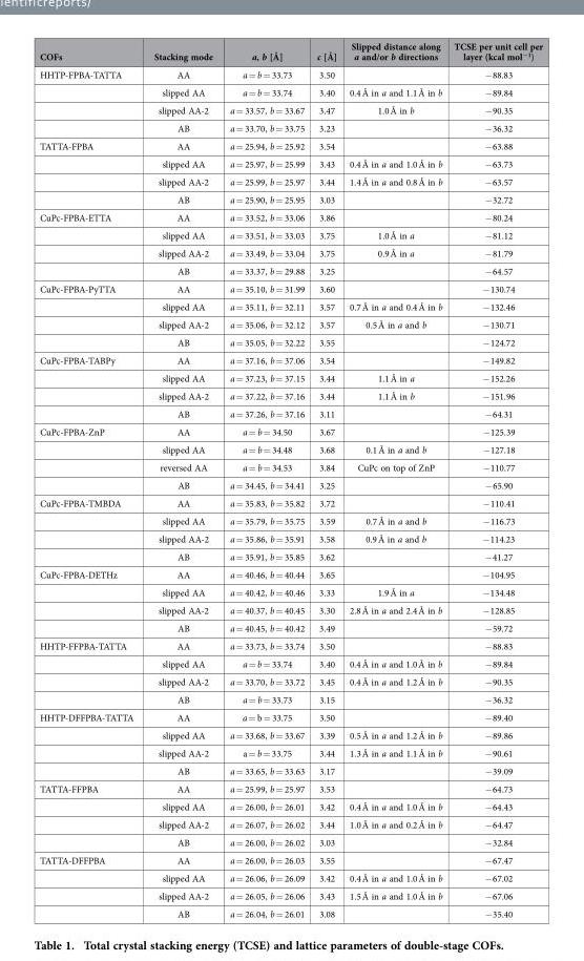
<table><thead><tr><td>COFs</td><td>Stacking mode</td><td>a, b [Å]</td><td>c [Å]</td><td>Slipped distance along a and/or b directions</td><td>TCSE per unit cell per layer (kcal mol<sup>−1</sup>)</td></tr></thead><tbody><tr><td rowspan="4">HHTP-FPBA-TATTA</td><td>AA</td><td>a = b = 33.73</td><td>3.50</td><td></td><td>− 88.83</td></tr><tr><td>slipped AA</td><td>a = b = 33.74</td><td>3.40</td><td>0.4 Å in a and 1.1 Å in b</td><td>− 89.84</td></tr><tr><td>slipped AA-2</td><td>a = 33.57, b = 33.67</td><td>3.47</td><td>1.0 Å in b</td><td>− 90.35</td></tr><tr><td>AB</td><td>a = 33.70, b = 33.75</td><td>3.23</td><td></td><td>− 36.32</td></tr><tr><td rowspan="4">TATTA-FPBA</td><td>AA</td><td>a = 25.94, b = 25.92</td><td>3.54</td><td></td><td>− 63.88</td></tr><tr><td>slipped AA</td><td>a = 25.97, b = 25.99</td><td>3.43</td><td>0.4 Å in a and 1.0 Å in b</td><td>− 63.73</td></tr><tr><td>slipped AA-2</td><td>a = 25.99, b = 25.97</td><td>3.44</td><td>1.4 Å in a and 0.8 Å in b</td><td>− 63.57</td></tr><tr><td>AB</td><td>a = 25.90, b = 25.95</td><td>3.03</td><td></td><td>− 32.72</td></tr><tr><td rowspan="4">CuPc-FPBA-ETTA</td><td>AA</td><td>a = 33.52, b = 33.06</td><td>3.86</td><td></td><td>− 80.24</td></tr><tr><td>slipped AA</td><td>a = 33.51, b = 33.03</td><td>3.75</td><td>1.0 Å in a</td><td>− 81.12</td></tr><tr><td>slipped AA-2</td><td>a = 33.49, b = 33.04</td><td>3.75</td><td>0.9 Å in a</td><td>− 81.79</td></tr><tr><td>AB</td><td>a = 33.37, b = 29.88</td><td>3.25</td><td></td><td>− 64.57</td></tr><tr><td rowspan="4">CuPc-FPBA-PyTTA</td><td>AA</td><td>a = 35.10, b = 31.99</td><td>3.60</td><td></td><td>− 130.74</td></tr><tr><td>slipped AA</td><td>a = 35.11, b = 32.11</td><td>3.57</td><td>0.7 Å in a and 0.4 Å in b</td><td>− 132.46</td></tr><tr><td>slipped AA-2</td><td>a = 35.06, b = 32.12</td><td>3.57</td><td>0.5 Å in a and b</td><td>− 130.71</td></tr><tr><td>AB</td><td>a = 35.05, b = 32.22</td><td>3.55</td><td></td><td>− 124.72</td></tr><tr><td rowspan="4">CuPc-FPBA-TABPy</td><td>AA</td><td>a = 37.16, b = 37.06</td><td>3.54</td><td></td><td>− 149.82</td></tr><tr><td>slipped AA</td><td>a = 37.23, b = 37.15</td><td>3.44</td><td>1.1 Å in a</td><td>− 152.26</td></tr><tr><td>slipped AA-2</td><td>a = 37.22, b = 37.16</td><td>3.44</td><td>1.1 Å in b</td><td>− 151.96</td></tr><tr><td>AB</td><td>a = 37.26, b = 37.16</td><td>3.11</td><td></td><td>− 64.31</td></tr><tr><td rowspan="4">CuPc-FPBA-ZnP</td><td>AA</td><td>a = b = 34.50</td><td>3.67</td><td></td><td>− 125.39</td></tr><tr><td>slipped AA</td><td>a = b = 34.48</td><td>3.68</td><td>0.1 Å in a and b</td><td>− 127.18</td></tr><tr><td>reversed AA</td><td>a = b = 34.53</td><td>3.84</td><td>CuPc on top of ZnP</td><td>− 110.77</td></tr><tr><td>AB</td><td>a = 34.45, b = 34.41</td><td>3.25</td><td></td><td>− 65.90</td></tr><tr><td rowspan="4">CuPc-FPBA-TMBDA</td><td>AA</td><td>a = 35.83, b = 35.82</td><td>3.72</td><td></td><td>− 110.41</td></tr><tr><td>slipped AA</td><td>a = 35.79, b = 35.75</td><td>3.59</td><td>0.7 Å in a and b</td><td>− 116.73</td></tr><tr><td>slipped AA-2</td><td>a = 35.86, b = 35.91</td><td>3.58</td><td>0.9 Å in a and b</td><td>− 114.23</td></tr><tr><td>AB</td><td>a = 35.91, b = 35.85</td><td>3.62</td><td></td><td>− 41.27</td></tr><tr><td rowspan="4">CuPc-FPBA-DETHz</td><td>AA</td><td>a = 40.46, b = 40.44</td><td>3.65</td><td></td><td>− 104.95</td></tr><tr><td>slipped AA</td><td>a = 40.42, b = 40.46</td><td>3.33</td><td>1.9 Å in a</td><td>− 134.48</td></tr><tr><td>slipped AA-2</td><td>a = 40.37, b = 40.45</td><td>3.30</td><td>2.8 Å in a and 2.4 Å in b</td><td>− 128.85</td></tr><tr><td>AB</td><td>a = 40.45, b = 40.42</td><td>3.49</td><td></td><td>− 59.72</td></tr><tr><td rowspan="4">HHTP-FFPBA-TATTA</td><td>AA</td><td>a = 33.73, b = 33.74</td><td>3.50</td><td></td><td>− 88.83</td></tr><tr><td>slipped AA</td><td>a = b = 33.74</td><td>3.40</td><td>0.4 Å in a and 1.0 Å in b</td><td>− 89.84</td></tr><tr><td>slipped AA-2</td><td>a = 33.70, b = 33.72</td><td>3.45</td><td>0.4 Å in a and 1.2 Å in b</td><td>− 90.35</td></tr><tr><td>AB</td><td>a = b = 33.73</td><td>3.15</td><td></td><td>− 36.32</td></tr><tr><td rowspan="4">HHTP-DFFPBA-TATTA</td><td>AA</td><td>a = b = 33.75</td><td>3.50</td><td></td><td>− 89.40</td></tr><tr><td>slipped AA</td><td>a = 33.68, b = 33.67</td><td>3.39</td><td>0.5 Å in a and 1.2 Å in b</td><td>− 89.86</td></tr><tr><td>slipped AA-2</td><td>a = b = 33.75</td><td>3.44</td><td>1.3 Å in a and 1.1 Å in b</td><td>− 90.61</td></tr><tr><td>AB</td><td>a = 33.65, b = 33.63</td><td>3.17</td><td></td><td>− 39.09</td></tr><tr><td rowspan="4">TATTA-FFPBA</td><td>AA</td><td>a = 25.99, b = 25.97</td><td>3.53</td><td></td><td>− 64.73</td></tr><tr><td>slipped AA</td><td>a = 26.00, b = 26.01</td><td>3.42</td><td>0.4 Å in a and 1.0 Å in b</td><td>− 64.43</td></tr><tr><td>slipped AA-2</td><td>a = 26.07, b = 26.02</td><td>3.44</td><td>1.0 Å in a and 0.2 Å in b</td><td>− 64.47</td></tr><tr><td>AB</td><td>a = 26.00, b = 26.02</td><td>3.03</td><td></td><td>− 32.84</td></tr><tr><td rowspan="4">TATTA-DFFPBA</td><td>AA</td><td>a = 26.00, b = 26.03</td><td>3.55</td><td></td><td>− 67.47</td></tr><tr><td>slipped AA</td><td>a = 26.06, b = 26.09</td><td>3.42</td><td>0.4 Å in a and 1.0 Å in b</td><td>− 67.02</td></tr><tr><td>slipped AA-2</td><td>a = 26.05, b = 26.06</td><td>3.43</td><td>1.5 Å in a and 1.0 Å in b</td><td>− 67.06</td></tr><tr><td>AB</td><td>a = 26.04, b = 26.01</td><td>3.08</td><td></td><td>− 35.40</td></tr></tbody></table>